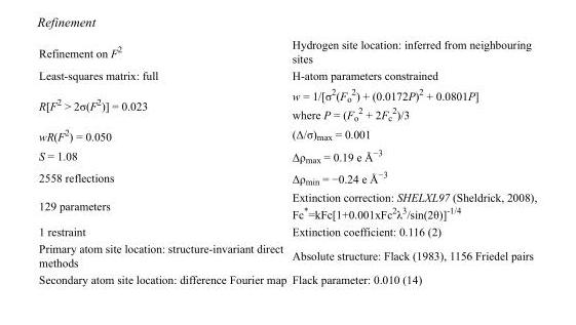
<table><tbody><tr><td>Refinement on F<sup>2</sup></td><td>Hydrogen site location: inferred from neighbouring sites</td></tr><tr><td>Least-squares matrix: full</td><td>H-atom parameters constrained</td></tr><tr><td>R[F<sup>2</sup> &gt; 2σ(F<sup>2</sup>)] = 0.023</td><td>w = 1/[σ<sup>2</sup>(F<sub>o</sub> <sup>2</sup>) + (0.0172P)<sup>2</sup> + 0.0801P] where P = (F<sub>o</sub> <sup>2</sup> + 2F<sub>c</sub> <sup>2</sup>)/3</td></tr><tr><td>wR(F<sup>2</sup>) = 0.050</td><td>(Δ/σ)<sub>max</sub> = 0.001</td></tr><tr><td>S = 1.08</td><td>Δρ<sub>max</sub> = 0.19 e Å<sup>−3</sup></td></tr><tr><td>2558 reflections</td><td>Δρ<sub>min</sub> = −0.24 e Å<sup>−3</sup></td></tr><tr><td>129 parameters</td><td>Extinction correction: SHELXL97 (Sheldrick, 2008), Fc*=kFc[1+0.001xFc<sup>2</sup>λ<sup>3</sup>/sin(2θ)]<sup>-1/4</sup></td></tr><tr><td>1 restraint</td><td>Extinction coefficient: 0.116 (2)</td></tr><tr><td>Primary atom site location: structure-invariant direct methods</td><td>Absolute structure: Flack (1983), 1156 Friedel pairs</td></tr><tr><td>Secondary atom site location: difference Fourier map</td><td>Flack parameter: 0.010 (14)</td></tr></tbody></table>